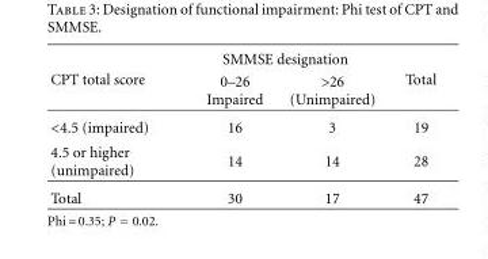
<table><thead><tr><td rowspan="2">CPT total score</td><td colspan="2">SMMSE designation</td><td rowspan="2">Total</td></tr><tr><td>0–26 Impaired</td><td>&gt;26 (Unimpaired)</td></tr></thead><tbody><tr><td>&lt;4.5 (impaired)</td><td>16</td><td>3</td><td>19</td></tr><tr><td>4.5 or higher (unimpaired)</td><td>14</td><td>14</td><td>28</td></tr><tr><td>Total</td><td>30</td><td>17</td><td>47</td></tr></tbody></table>